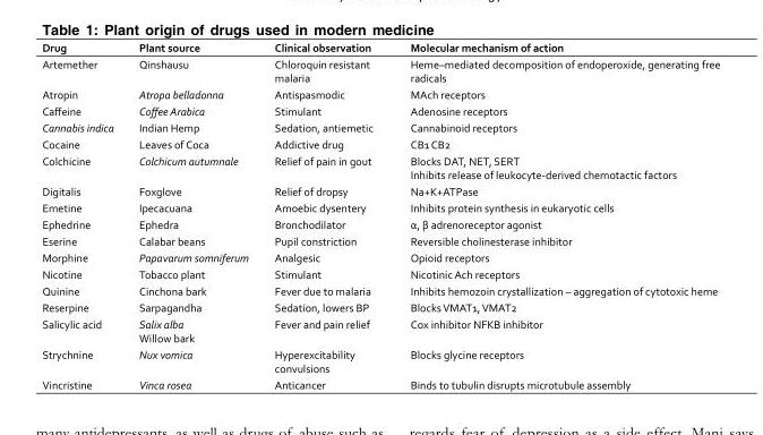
<table><thead><tr><td>Drug</td><td>Plant source</td><td>Clinical observation</td><td>Molecular mechanism of action</td></tr></thead><tbody><tr><td>Artemether</td><td>Qinshausu</td><td>Chloroquin resistant malaria</td><td>Heme–mediated decomposition of endoperoxide, generating free radicals</td></tr><tr><td>Atropin</td><td>Atropa belladonna</td><td>Antispasmodic</td><td>MAch receptors</td></tr><tr><td>Caffeine</td><td>Coffee Arabica</td><td>Stimulant</td><td>Adenosine receptors</td></tr><tr><td>Cannabis indica</td><td>Indian Hemp</td><td>Sedation, antiemetic</td><td>Cannabinoid receptors</td></tr><tr><td>Cocaine</td><td>Leaves of Coca</td><td>Addictive drug</td><td>CB<sub>1</sub> CB<sub>2</sub></td></tr><tr><td>Colchicine</td><td>Colchicum autumnale</td><td>Relief of pain in gout</td><td>Blocks DAT, NET, SERT Inhibits release of leukocyte-derived chemotactic factors</td></tr><tr><td>Digitalis</td><td>Foxglove</td><td>Relief of dropsy</td><td>Na+K+ATPase</td></tr><tr><td>Emetine</td><td>Ipecacuana</td><td>Amoebic dysentery</td><td>Inhibits protein synthesis in eukaryotic cells</td></tr><tr><td>Ephedrine</td><td>Ephedra</td><td>Bronchodilator</td><td>α, β adrenoreceptor agonist</td></tr><tr><td>Eserine</td><td>Calabar beans</td><td>Pupil constriction</td><td>Reversible cholinesterase inhibitor</td></tr><tr><td>Morphine</td><td>Papavarum somniferum</td><td>Analgesic</td><td>Opioid receptors</td></tr><tr><td>Nicotine</td><td>Tobacco plant</td><td>Stimulant</td><td>Nicotinic Ach receptors</td></tr><tr><td>Quinine</td><td>Cinchona bark</td><td>Fever due to malaria</td><td>Inhibits hemozoin crystallization – aggregation of cytotoxic heme</td></tr><tr><td>Reserpine</td><td>Sarpagandha</td><td>Sedation, lowers BP</td><td>Blocks VMAT<sub>1,</sub> VMAT<sub>2</sub></td></tr><tr><td>Salicylic acid</td><td>Salix alba Willow bark</td><td>Fever and pain relief</td><td>Cox inhibitor NFKB inhibitor</td></tr><tr><td>Strychnine</td><td>Nux vomica</td><td>Hyperexcitability convulsions</td><td>Blocks glycine receptors</td></tr><tr><td>Vincristine</td><td>Vinca rosea</td><td>Anticancer</td><td>Binds to tubulin disrupts microtubule assembly</td></tr></tbody></table>